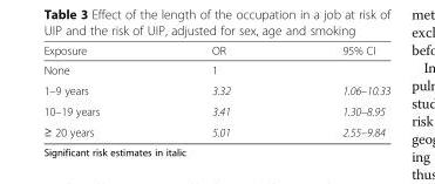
<table><thead><tr><td>Exposure</td><td>OR</td><td>95% CI</td></tr></thead><tbody><tr><td>None</td><td>1</td><td></td></tr><tr><td>1–9 years</td><td>3.32</td><td>1.06–10.33</td></tr><tr><td>10–19 years</td><td>3.41</td><td>1.30–8.95</td></tr><tr><td>≥ 20 years</td><td>5.01</td><td>2.55–9.84</td></tr></tbody></table>